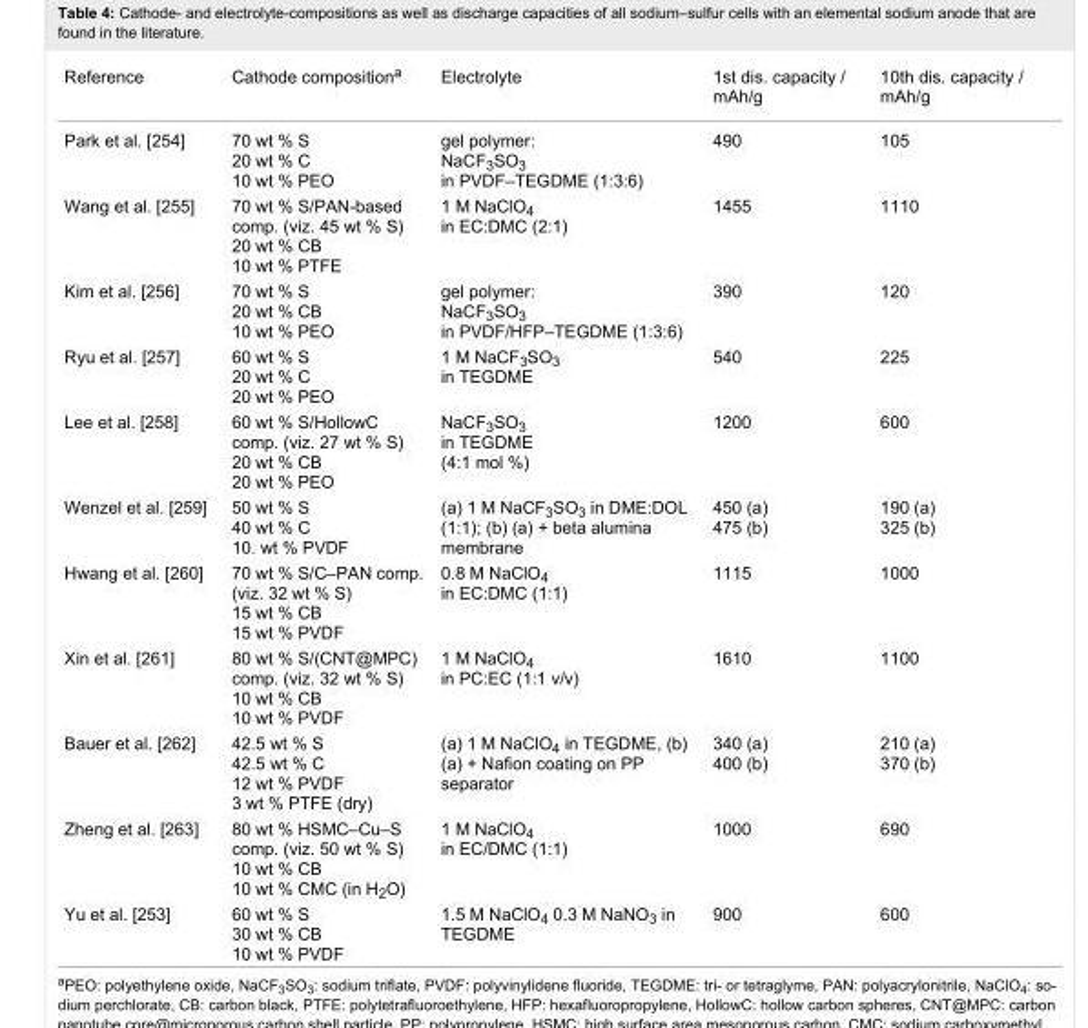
<table><tbody><tr><td>Reference</td><td>Cathode composition<sup>a</sup></td><td>Electrolyte</td><td>1st dis. capacity / mAh/g</td><td>10th dis. capacity / mAh/g</td></tr><tr><td>Park et al. [254]</td><td>70 wt % S 20 wt % C 10 wt % PEO</td><td>gel polymer: NaCF<sub>3</sub>SO<sub>3</sub> in PVDF–TEGDME (1:3:6)</td><td>490</td><td>105</td></tr><tr><td>Wang et al. [255]</td><td>70 wt % S/PAN-based comp. (viz. 45 wt % S) 20 wt % CB 10 wt % PTFE</td><td>1 M NaClO<sub>4</sub> in EC:DMC (2:1)</td><td>1455</td><td>1110</td></tr><tr><td>Kim et al. [256]</td><td>70 wt % S 20 wt % CB 10 wt % PEO</td><td>gel polymer: NaCF<sub>3</sub>SO<sub>3</sub> in PVDF/HFP–TEGDME (1:3:6)</td><td>390</td><td>120</td></tr><tr><td>Ryu et al. [257]</td><td>60 wt % S 20 wt % C 20 wt % PEO</td><td>1 M NaCF<sub>3</sub>SO<sub>3</sub> in TEGDME</td><td>540</td><td>225</td></tr><tr><td>Lee et al. [258]</td><td>60 wt % S/HollowC comp. (viz. 27 wt % S) 20 wt % CB 20 wt % PEO</td><td>NaCF<sub>3</sub>SO<sub>3</sub> in TEGDME (4:1 mol %)</td><td>1200</td><td>600</td></tr><tr><td>Wenzel et al. [259]</td><td>50 wt % S 40 wt % C 10. wt % PVDF</td><td>(a) 1 M NaCF<sub>3</sub>SO<sub>3</sub> in DME:DOL (1:1); (b) (a) + beta alumina membrane</td><td>450 (a) 475 (b)</td><td>190 (a) 325 (b)</td></tr><tr><td>Hwang et al. [260]</td><td>70 wt % S/C–PAN comp. (viz. 32 wt % S) 15 wt % CB 15 wt % PVDF</td><td>0.8 M NaClO<sub>4</sub> in EC:DMC (1:1)</td><td>1115</td><td>1000</td></tr><tr><td>Xin et al. [261]</td><td>80 wt % S/(CNT@MPC) comp. (viz. 32 wt % S) 10 wt % CB 10 wt % PVDF</td><td>1 M NaClO<sub>4</sub> in PC:EC (1:1 v/v)</td><td>1610</td><td>1100</td></tr><tr><td>Bauer et al. [262]</td><td>42.5 wt % S 42.5 wt % C 12 wt % PVDF 3 wt % PTFE (dry)</td><td>(a) 1 M NaClO<sub>4</sub> in TEGDME, (b) (a) + Nafion coating on PP separator</td><td>340 (a) 400 (b)</td><td>210 (a) 370 (b)</td></tr><tr><td>Zheng et al. [263]</td><td>80 wt % HSMC–Cu–S comp. (viz. 50 wt % S) 10 wt % CB 10 wt % CMC (in H<sub>2</sub>O)</td><td>1 M NaClO<sub>4</sub> in EC/DMC (1:1)</td><td>1000</td><td>690</td></tr><tr><td>Yu et al. [253]</td><td>60 wt % S 30 wt % CB 10 wt % PVDF</td><td>1.5 M NaClO<sub>4</sub> 0.3 M NaNO<sub>3</sub> in TEGDME</td><td>900</td><td>600</td></tr></tbody></table>